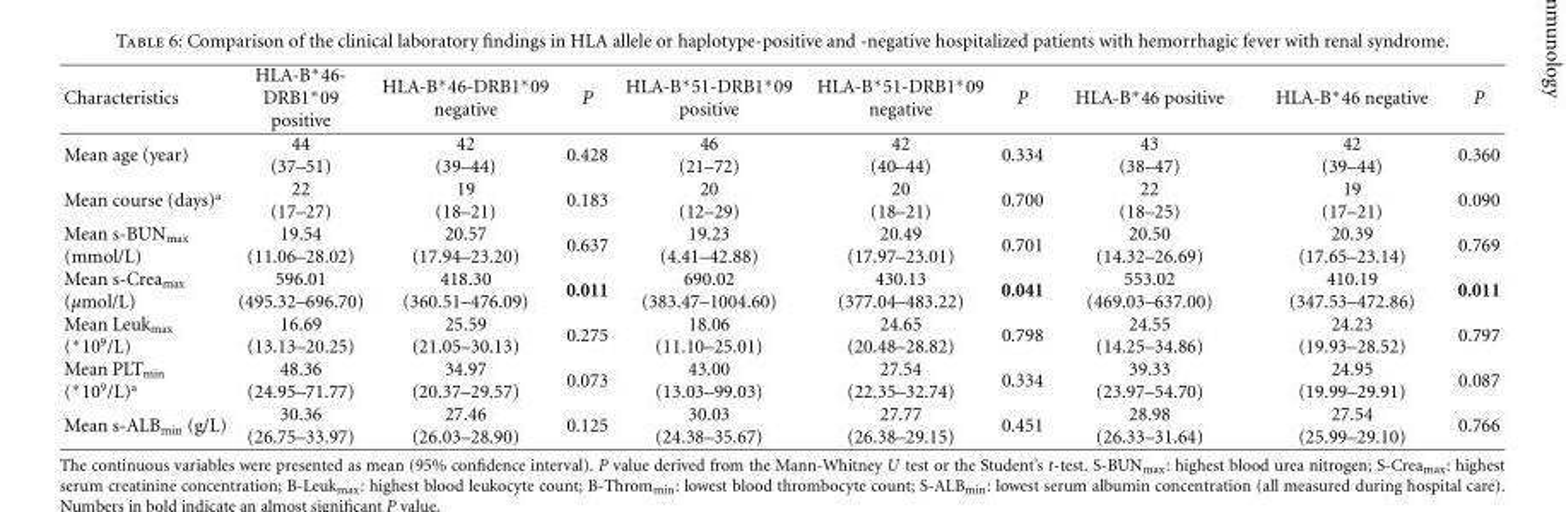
<table><thead><tr><td>Characteristics</td><td>HLA-B∗46- DRB1∗09 positive</td><td>HLA-B∗46-DRB1∗09 negative</td><td>P</td><td>HLA-B∗51-DRB1∗09 positive</td><td>HLA-B∗51-DRB1∗09 negative</td><td>P</td><td>HLA-B∗46 positive</td><td>HLA-B∗46 negative</td><td>P</td></tr></thead><tbody><tr><td>Mean age (year)</td><td>44 (37–51)</td><td>42 (39–44)</td><td>0.428</td><td>46 (21–72)</td><td>42 (40–44)</td><td>0.334</td><td>43 (38–47)</td><td>42 (39–44)</td><td>0.360</td></tr><tr><td>Mean course (days)<sup>a</sup></td><td>22 (17–27)</td><td>19 (18–21)</td><td>0.183</td><td>20 (12–29)</td><td>20 (18–21)</td><td>0.700</td><td>22 (18–25)</td><td>19 (17–21)</td><td>0.090</td></tr><tr><td>Mean s-BUN<sub>max</sub> (mmol/L)</td><td>19.54 (11.06–28.02)</td><td>20.57 (17.94–23.20)</td><td>0.637</td><td>19.23 (4.41–42.88)</td><td>20.49 (17.97–23.01)</td><td>0.701</td><td>20.50 (14.32–26.69)</td><td>20.39 (17.65–23.14)</td><td>0.769</td></tr><tr><td>Mean s-Crea<sub>max</sub> (μmol/L)</td><td>596.01 (495.32–696.70)</td><td>418.30 (360.51–476.09)</td><td>0.011</td><td>690.02 (383.47–1004.60)</td><td>430.13 (377.04–483.22)</td><td>0.041</td><td>553.02 (469.03–637.00)</td><td>410.19 (347.53–472.86)</td><td>0.011</td></tr><tr><td>Mean Leukmax (∗109/L)</td><td>16.69 (13.13–20.25)</td><td>25.59 (21.05–30.13)</td><td>0.275</td><td>18.06 (11.10–25.01)</td><td>24.65 (20.48–28.82)</td><td>0.798</td><td>24.55 (14.25–34.86)</td><td>24.23 (19.93–28.52)</td><td>0.797</td></tr><tr><td>Mean PLTmin (∗109/L)a</td><td>48.36 (24.95–71.77)</td><td>34.97 (20.37–29.57)</td><td>0.073</td><td>43.00 (13.03–99.03)</td><td>27.54 (22.35–32.74)</td><td>0.334</td><td>39.33 (23.97–54.70)</td><td>24.95 (19.99–29.91)</td><td>0.087</td></tr><tr><td>Mean s-ALB<sub>min</sub> (g/L)</td><td>30.36 (26.75–33.97)</td><td>27.46 (26.03–28.90)</td><td>0.125</td><td>30.03 (24.38–35.67)</td><td>27.77 (26.38–29.15)</td><td>0.451</td><td>28.98 (26.33–31.64)</td><td>27.54 (25.99–29.10)</td><td>0.766</td></tr></tbody></table>